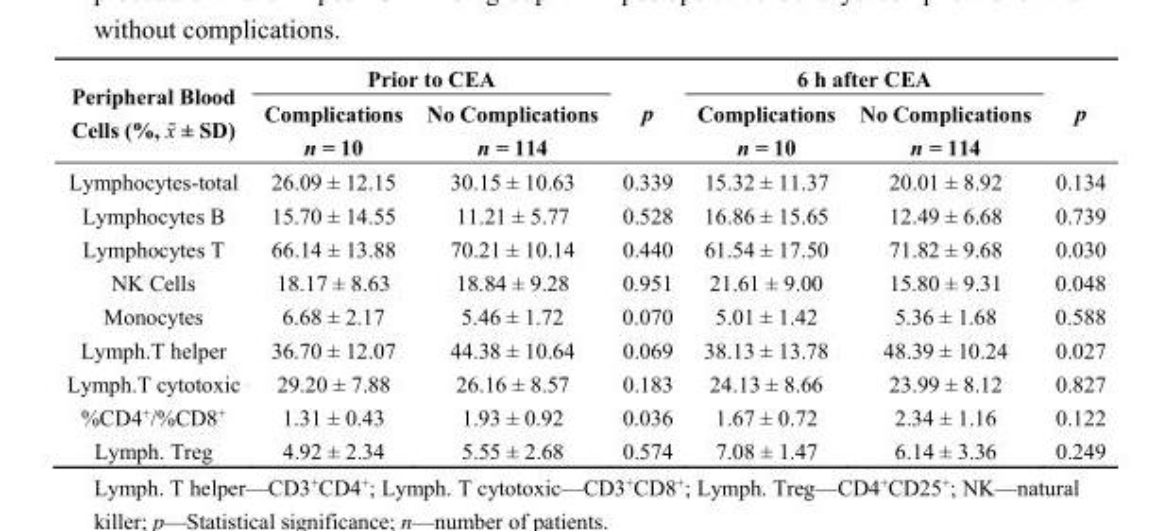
<table><thead><tr><td rowspan="2">Peripheral Blood Cells (%, x̄ ± SD)</td><td colspan="2">Prior to CEA</td><td rowspan="2">p</td><td colspan="2">6 h after CEA</td><td rowspan="2">p</td></tr><tr><td>Complications n = 10</td><td>No Complications n = 114</td><td>Complications n = 10</td><td>No Complications n = 114</td></tr></thead><tbody><tr><td>Lymphocytes-total</td><td>26.09 ± 12.15</td><td>30.15 ± 10.63</td><td>0.339</td><td>15.32 ± 11.37</td><td>20.01 ± 8.92</td><td>0.134</td></tr><tr><td>Lymphocytes B</td><td>15.70 ± 14.55</td><td>11.21 ± 5.77</td><td>0.528</td><td>16.86 ± 15.65</td><td>12.49 ± 6.68</td><td>0.739</td></tr><tr><td>Lymphocytes T</td><td>66.14 ± 13.88</td><td>70.21 ± 10.14</td><td>0.440</td><td>61.54 ± 17.50</td><td>71.82 ± 9.68</td><td>0.030</td></tr><tr><td>NK Cells</td><td>18.17 ± 8.63</td><td>18.84 ± 9.28</td><td>0.951</td><td>21.61 ± 9.00</td><td>15.80 ± 9.31</td><td>0.048</td></tr><tr><td>Monocytes</td><td>6.68 ± 2.17</td><td>5.46 ± 1.72</td><td>0.070</td><td>5.01 ± 1.42</td><td>5.36 ± 1.68</td><td>0.588</td></tr><tr><td>Lymph.T helper</td><td>36.70 ± 12.07</td><td>44.38 ± 10.64</td><td>0.069</td><td>38.13 ± 13.78</td><td>48.39 ± 10.24</td><td>0.027</td></tr><tr><td>Lymph.T cytotoxic</td><td>29.20 ± 7.88</td><td>26.16 ± 8.57</td><td>0.183</td><td>24.13 ± 8.66</td><td>23.99 ± 8.12</td><td>0.827</td></tr><tr><td>%CD4<sup>+</sup>/%CD8<sup>+</sup></td><td>1.31 ± 0.43</td><td>1.93 ± 0.92</td><td>0.036</td><td>1.67 ± 0.72</td><td>2.34 ± 1.16</td><td>0.122</td></tr><tr><td>Lymph. Treg</td><td>4.92 ± 2.34</td><td>5.55 ± 2.68</td><td>0.574</td><td>7.08 ± 1.47</td><td>6.14 ± 3.36</td><td>0.249</td></tr></tbody></table>